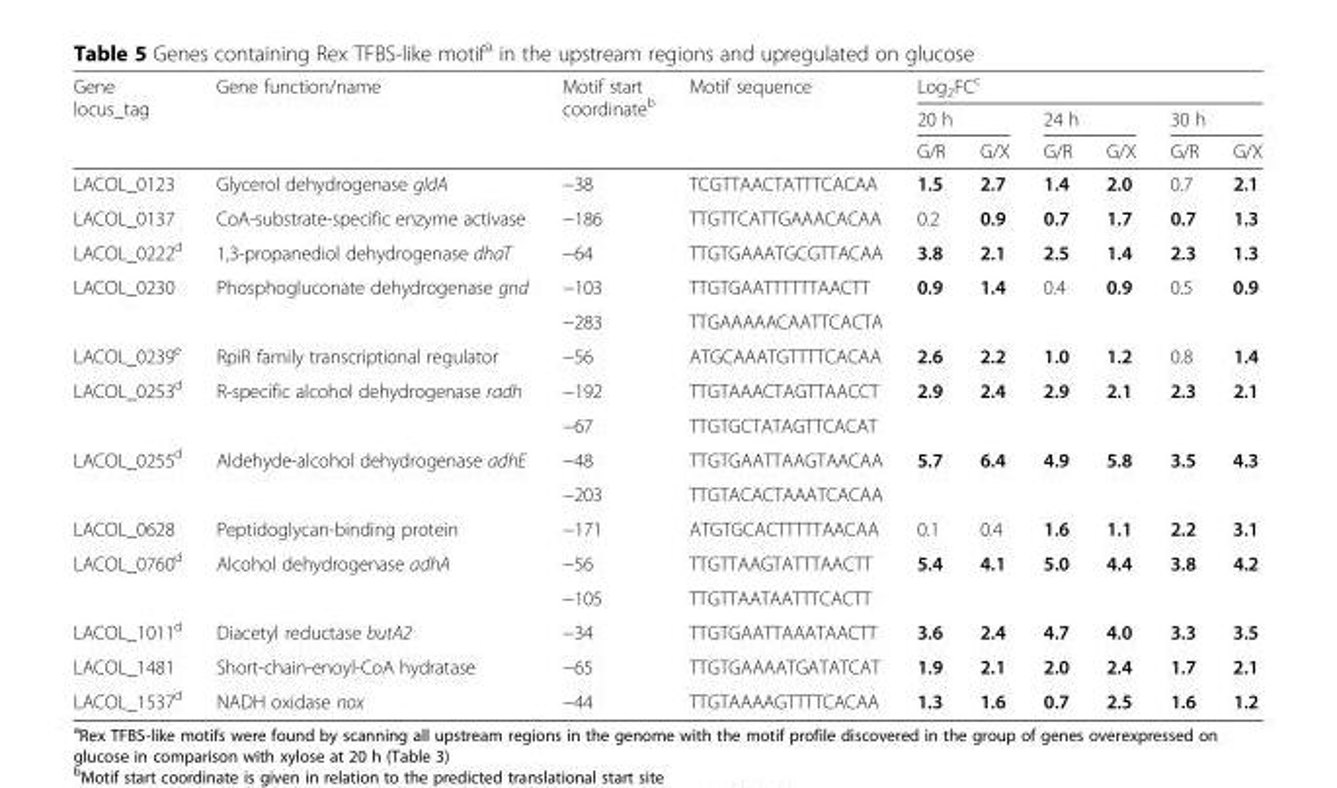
<table><thead><tr><td rowspan="3">Gene locus_tag</td><td rowspan="3">Gene function/name</td><td rowspan="3">Motif start coordinate<sup>b</sup></td><td rowspan="3">Motif sequence</td><td colspan="6">Log<sub>2</sub>FC<sup>c</sup></td></tr><tr><td colspan="2">20 h</td><td colspan="2">24 h</td><td colspan="2">30 h</td></tr><tr><td>G/R</td><td>G/X</td><td>G/R</td><td>G/X</td><td>G/R</td><td>G/X</td></tr></thead><tbody><tr><td>LACOL_0123</td><td>Glycerol dehydrogenase gldA</td><td>−38</td><td>TCGTTAACTATTTCACAA</td><td>1.5</td><td>2.7</td><td>1.4</td><td>2.0</td><td>0.7</td><td>2.1</td></tr><tr><td>LACOL_0137</td><td>CoA-substrate-specific enzyme activase</td><td>−186</td><td>TTGTTCATTGAAACACAA</td><td>0.2</td><td>0.9</td><td>0.7</td><td>1.7</td><td>0.7</td><td>1.3</td></tr><tr><td>LACOL_0222<sup>d</sup></td><td>1,3-propanediol dehydrogenase dhaT</td><td>−64</td><td>TTGTGAAATGCGTTACAA</td><td>3.8</td><td>2.1</td><td>2.5</td><td>1.4</td><td>2.3</td><td>1.3</td></tr><tr><td rowspan="2">LACOL_0230</td><td rowspan="2">Phosphogluconate dehydrogenase gnd</td><td>−103</td><td>TTGTGAATTTTTTAACTT</td><td rowspan="2">0.9</td><td rowspan="2">1.4</td><td rowspan="2">0.4</td><td rowspan="2">0.9</td><td rowspan="2">0.5</td><td rowspan="2">0.9</td></tr><tr><td>−283</td><td>TTGAAAAACAATTCACTA</td></tr><tr><td>LACOL_0239<sup>e</sup></td><td>RpiR family transcriptional regulator</td><td>−56</td><td>ATGCAAATGTTTTCACAA</td><td>2.6</td><td>2.2</td><td>1.0</td><td>1.2</td><td>0.8</td><td>1.4</td></tr><tr><td rowspan="2">LACOL_0253<sup>d</sup></td><td rowspan="2">R-specific alcohol dehydrogenase radh</td><td>−192</td><td>TTGTAAACTAGTTAACCT</td><td rowspan="2">2.9</td><td rowspan="2">2.4</td><td rowspan="2">2.9</td><td rowspan="2">2.1</td><td rowspan="2">2.3</td><td rowspan="2">2.1</td></tr><tr><td>−67</td><td>TTGTGCTATAGTTCACAT</td></tr><tr><td rowspan="2">LACOL_0255<sup>d</sup></td><td rowspan="2">Aldehyde-alcohol dehydrogenase adhE</td><td>−48</td><td>TTGTGAATTAAGTAACAA</td><td rowspan="2">5.7</td><td rowspan="2">6.4</td><td rowspan="2">4.9</td><td rowspan="2">5.8</td><td rowspan="2">3.5</td><td rowspan="2">4.3</td></tr><tr><td>−203</td><td>TTGTACACTAAATCACAA</td></tr><tr><td>LACOL_0628</td><td>Peptidoglycan-binding protein</td><td>−171</td><td>ATGTGCACTTTTTAACAA</td><td>0.1</td><td>0.4</td><td>1.6</td><td>1.1</td><td>2.2</td><td>3.1</td></tr><tr><td rowspan="2">LACOL_0760<sup>d</sup></td><td rowspan="2">Alcohol dehydrogenase adhA</td><td>−56</td><td>TTGTTAAGTATTTAACTT</td><td rowspan="2">5.4</td><td rowspan="2">4.1</td><td rowspan="2">5.0</td><td rowspan="2">4.4</td><td rowspan="2">3.8</td><td rowspan="2">4.2</td></tr><tr><td>−105</td><td>TTGTTAATAATTTCACTT</td></tr><tr><td>LACOL_1011<sup>d</sup></td><td>Diacetyl reductase butA2</td><td>−34</td><td>TTGTGAATTAAATAACTT</td><td>3.6</td><td>2.4</td><td>4.7</td><td>4.0</td><td>3.3</td><td>3.5</td></tr><tr><td>LACOL_1481</td><td>Short-chain-enoyl-CoA hydratase</td><td>−65</td><td>TTGTGAAAATGATATCAT</td><td>1.9</td><td>2.1</td><td>2.0</td><td>2.4</td><td>1.7</td><td>2.1</td></tr><tr><td>LACOL_1537<sup>d</sup></td><td>NADH oxidase nox</td><td>−44</td><td>TTGTAAAAGTTTTCACAA</td><td>1.3</td><td>1.6</td><td>0.7</td><td>2.5</td><td>1.6</td><td>1.2</td></tr></tbody></table>